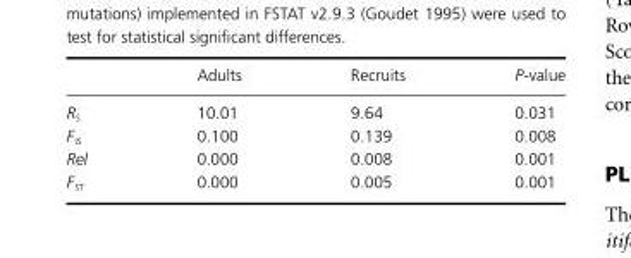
<table><thead><tr><td></td><td>Adults</td><td>Recruits</td><td>P-value</td></tr></thead><tbody><tr><td>R<sub>S</sub></td><td>10.01</td><td>9.64</td><td>0.031</td></tr><tr><td>F<sub>IS</sub></td><td>0.100</td><td>0.139</td><td>0.008</td></tr><tr><td>Rel</td><td>0.000</td><td>0.008</td><td>0.001</td></tr><tr><td>F<sub>ST</sub></td><td>0.000</td><td>0.005</td><td>0.001</td></tr></tbody></table>